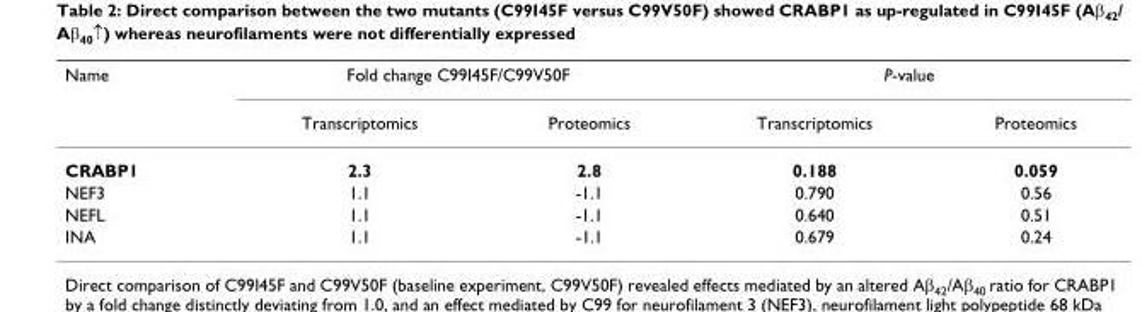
<table><thead><tr><td rowspan="2">Name</td><td colspan="2">Fold change C99I45F/C99V50F</td><td colspan="2">P-value</td></tr><tr><td>Transcriptomics</td><td>Proteomics</td><td>Transcriptomics</td><td>Proteomics</td></tr></thead><tbody><tr><td>CRABP1</td><td>2.3</td><td>2.8</td><td>0.188</td><td>0.059</td></tr><tr><td>NEF3</td><td>1.1</td><td>-1.1</td><td>0.790</td><td>0.56</td></tr><tr><td>NEFL</td><td>1.1</td><td>-1.1</td><td>0.640</td><td>0.51</td></tr><tr><td>INA</td><td>1.1</td><td>-1.1</td><td>0.679</td><td>0.24</td></tr></tbody></table>